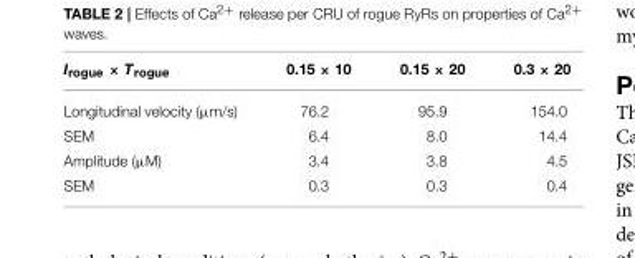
<table><thead><tr><td>I<sub>rogue</sub> × T<sub>rogue</sub></td><td>0.15 × 10</td><td>0.15 × 20</td><td>0.3 × 20</td></tr></thead><tbody><tr><td>Longitudinal velocity (µm/s)</td><td>76.2</td><td>95.9</td><td>154.0</td></tr><tr><td>SEM</td><td>6.4</td><td>8.0</td><td>14.4</td></tr><tr><td>Amplitude (µM)</td><td>3.4</td><td>3.8</td><td>4.5</td></tr><tr><td>SEM</td><td>0.3</td><td>0.3</td><td>0.4</td></tr></tbody></table>